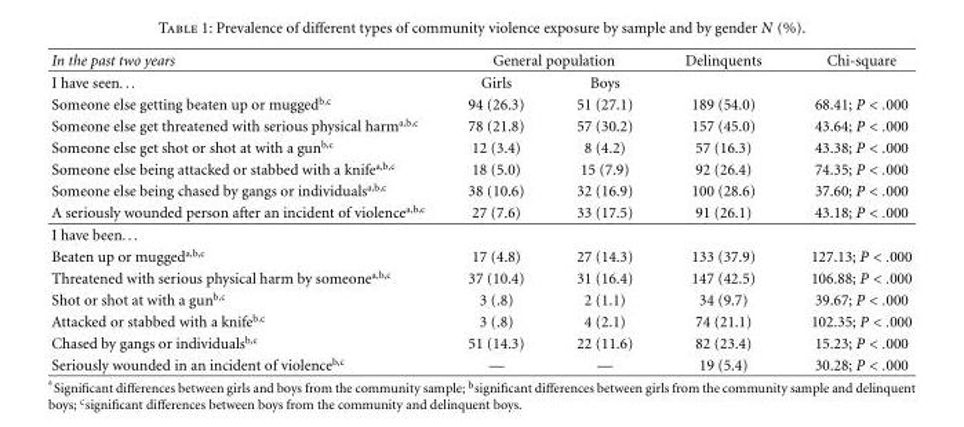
<table><thead><tr><td rowspan="2">In the past two years I have seen...</td><td colspan="2">General population</td><td rowspan="2">Delinquents</td><td rowspan="2">Chi-square</td></tr><tr><td>Girls</td><td>Boys</td></tr></thead><tbody><tr><td>Someone else getting beaten up or mugged<sup>b,c</sup></td><td>94 (26.3)</td><td>51 (27.1)</td><td>189 (54.0)</td><td>68.41; P &lt; .000</td></tr><tr><td>Someone else get threatened with serious physical harm<sup>a,b,c</sup></td><td>78 (21.8)</td><td>57 (30.2)</td><td>157 (45.0)</td><td>43.64; P &lt; .000</td></tr><tr><td>Someone else get shot or shot at with a gun<sup>b,c</sup></td><td>12 (3.4)</td><td>8 (4.2)</td><td>57 (16.3)</td><td>43.38; P &lt; .000</td></tr><tr><td>Someone else being attacked or stabbed with a knife<sup>a,b,c</sup></td><td>18 (5.0)</td><td>15 (7.9)</td><td>92 (26.4)</td><td>74.35; P &lt; .000</td></tr><tr><td>Someone else being chased by gangs or individuals<sup>a,b,c</sup></td><td>38 (10.6)</td><td>32 (16.9)</td><td>100 (28.6)</td><td>37.60; P &lt; .000</td></tr><tr><td>A seriously wounded person after an incident of violence<sup>a,b,c</sup></td><td>27 (7.6)</td><td>33 (17.5)</td><td>91 (26.1)</td><td>43.18; P &lt; .000</td></tr><tr><td colspan="5">I have been...</td></tr><tr><td>Beaten up or mugged<sup>a,b,c</sup></td><td>17 (4.8)</td><td>27 (14.3)</td><td>133 (37.9)</td><td>127.13; P &lt; .000</td></tr><tr><td>Threatened with serious physical harm by someone<sup>a,b,c</sup></td><td>37 (10.4)</td><td>31 (16.4)</td><td>147 (42.5)</td><td>106.88; P &lt; .000</td></tr><tr><td>Shot or shot at with a gun<sup>b,c</sup></td><td>3 (.8)</td><td>2 (1.1)</td><td>34 (9.7)</td><td>39.67; P &lt; .000</td></tr><tr><td>Attacked or stabbed with a knife<sup>b,c</sup></td><td>3 (.8)</td><td>4 (2.1)</td><td>74 (21.1)</td><td>102.35; P &lt; .000</td></tr><tr><td>Chased by gangs or individuals<sup>b,c</sup></td><td>51 (14.3)</td><td>22 (11.6)</td><td>82 (23.4)</td><td>15.23; P &lt; .000</td></tr><tr><td>Seriously wounded in an incident of violence<sup>b,c</sup></td><td>—</td><td>—</td><td>19 (5.4)</td><td>30.28; P &lt; .000</td></tr></tbody></table>